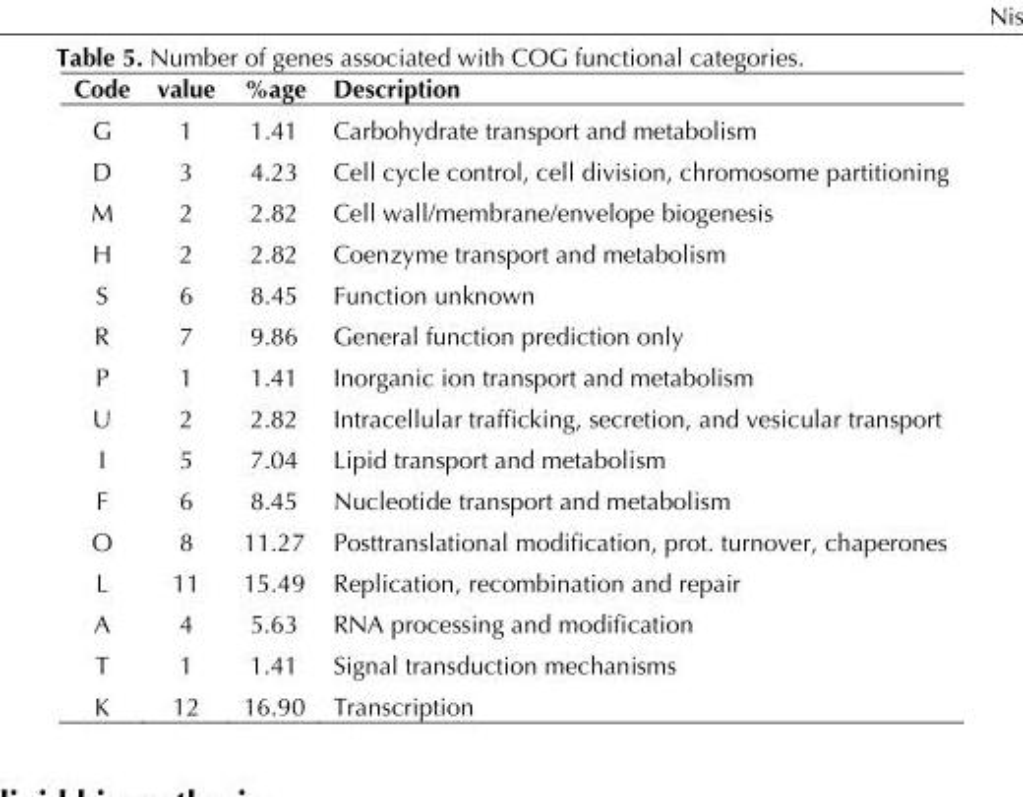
<table><thead><tr><td>Code</td><td>value</td><td>%age</td><td>Description</td></tr></thead><tbody><tr><td>G</td><td>1</td><td>1.41</td><td>Carbohydrate transport and metabolism</td></tr><tr><td>D</td><td>3</td><td>4.23</td><td>Cell cycle control, cell division, chromosome partitioning</td></tr><tr><td>M</td><td>2</td><td>2.82</td><td>Cell wall/membrane/envelope biogenesis</td></tr><tr><td>H</td><td>2</td><td>2.82</td><td>Coenzyme transport and metabolism</td></tr><tr><td>S</td><td>6</td><td>8.45</td><td>Function unknown</td></tr><tr><td>R</td><td>7</td><td>9.86</td><td>General function prediction only</td></tr><tr><td>P</td><td>1</td><td>1.41</td><td>Inorganic ion transport and metabolism</td></tr><tr><td>U</td><td>2</td><td>2.82</td><td>Intracellular trafficking, secretion, and vesicular transport</td></tr><tr><td>I</td><td>5</td><td>7.04</td><td>Lipid transport and metabolism</td></tr><tr><td>F</td><td>6</td><td>8.45</td><td>Nucleotide transport and metabolism</td></tr><tr><td>O</td><td>8</td><td>11.27</td><td>Posttranslational modification, prot. turnover, chaperones</td></tr><tr><td>L</td><td>11</td><td>15.49</td><td>Replication, recombination and repair</td></tr><tr><td>A</td><td>4</td><td>5.63</td><td>RNA processing and modification</td></tr><tr><td>T</td><td>1</td><td>1.41</td><td>Signal transduction mechanisms</td></tr><tr><td>K</td><td>12</td><td>16.90</td><td>Transcription</td></tr></tbody></table>